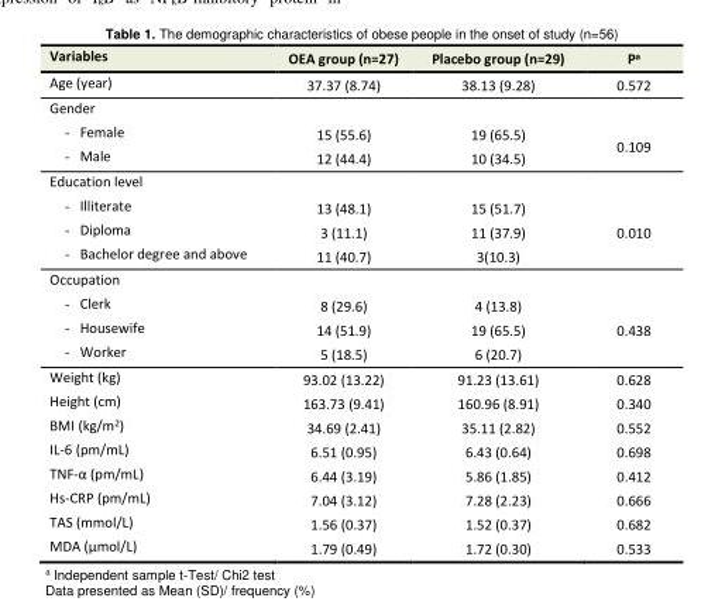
<table><tbody><tr><td>Variables</td><td>OEA group (n=27)</td><td>Placebo group (n=29)</td><td>P<sup>a</sup></td></tr><tr><td>Age (year)</td><td>37.37 (8.74)</td><td>38.13 (9.28)</td><td>0.572</td></tr><tr><td colspan="4">Gender</td></tr><tr><td>- Female</td><td>15 (55.6)</td><td>19 (65.5)</td><td rowspan="2">0.109</td></tr><tr><td>- Male</td><td>12 (44.4)</td><td>10 (34.5)</td></tr><tr><td colspan="4">Education level</td></tr><tr><td>- Illiterate</td><td>13 (48.1)</td><td>15 (51.7)</td><td rowspan="3">0.010</td></tr><tr><td>- Diploma</td><td>3 (11.1)</td><td>11 (37.9)</td></tr><tr><td>- Bachelor degree and above</td><td>11 (40.7)</td><td>3(10.3)</td></tr><tr><td colspan="4">Occupation</td></tr><tr><td>- Clerk</td><td>8 (29.6)</td><td>4 (13.8)</td><td rowspan="3">0.438</td></tr><tr><td>- Housewife</td><td>14 (51.9)</td><td>19 (65.5)</td></tr><tr><td>- Worker</td><td>5 (18.5)</td><td>6 (20.7)</td></tr><tr><td>Weight (kg)</td><td>93.02 (13.22)</td><td>91.23 (13.61)</td><td>0.628</td></tr><tr><td>Height (cm)</td><td>163.73 (9.41)</td><td>160.96 (8.91)</td><td>0.340</td></tr><tr><td>BMI (kg/m<sup>2</sup>)</td><td>34.69 (2.41)</td><td>35.11 (2.82)</td><td>0.552</td></tr><tr><td>IL-6 (pm/mL)</td><td>6.51 (0.95)</td><td>6.43 (0.64)</td><td>0.698</td></tr><tr><td>TNF-α (pm/mL)</td><td>6.44 (3.19)</td><td>5.86 (1.85)</td><td>0.412</td></tr><tr><td>Hs-CRP (pm/mL)</td><td>7.04 (3.12)</td><td>7.28 (2.23)</td><td>0.666</td></tr><tr><td>TAS (mmol/L)</td><td>1.56 (0.37)</td><td>1.52 (0.37)</td><td>0.682</td></tr><tr><td>MDA (µmol/L)</td><td>1.79 (0.49)</td><td>1.72 (0.30)</td><td>0.533</td></tr></tbody></table>